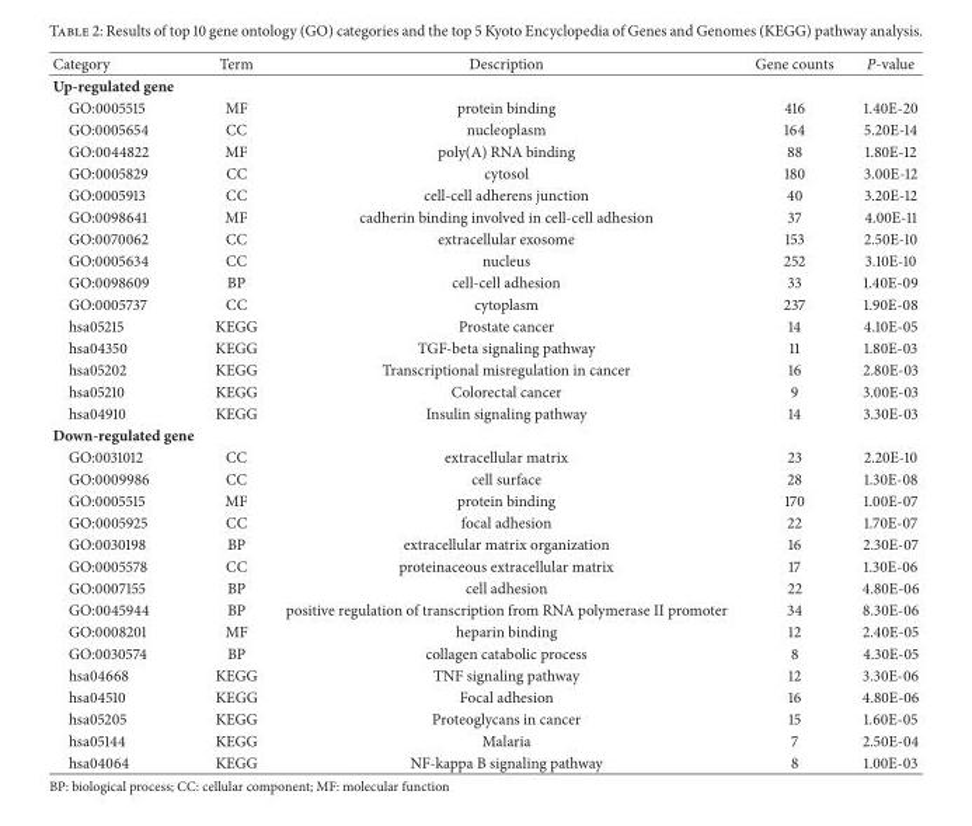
<table><thead><tr><td>Category</td><td>Term</td><td>Description</td><td>Gene counts</td><td>P-value</td></tr></thead><tbody><tr><td colspan="5">Up-regulated gene</td></tr><tr><td>GO:0005515</td><td>MF</td><td>protein binding</td><td>416</td><td>1.40E-20</td></tr><tr><td>GO:0005654</td><td>CC</td><td>nucleoplasm</td><td>164</td><td>5.20E-14</td></tr><tr><td>GO:0044822</td><td>MF</td><td>poly(A) RNA binding</td><td>88</td><td>1.80E-12</td></tr><tr><td>GO:0005829</td><td>CC</td><td>cytosol</td><td>180</td><td>3.00E-12</td></tr><tr><td>GO:0005913</td><td>CC</td><td>cell-cell adherens junction</td><td>40</td><td>3.20E-12</td></tr><tr><td>GO:0098641</td><td>MF</td><td>cadherin binding involved in cell-cell adhesion</td><td>37</td><td>4.00E-11</td></tr><tr><td>GO:0070062</td><td>CC</td><td>extracellular exosome</td><td>153</td><td>2.50E-10</td></tr><tr><td>GO:0005634</td><td>CC</td><td>nucleus</td><td>252</td><td>3.10E-10</td></tr><tr><td>GO:0098609</td><td>BP</td><td>cell-cell adhesion</td><td>33</td><td>1.40E-09</td></tr><tr><td>GO:0005737</td><td>CC</td><td>cytoplasm</td><td>237</td><td>1.90E-08</td></tr><tr><td>hsa05215</td><td>KEGG</td><td>Prostate cancer</td><td>14</td><td>4.10E-05</td></tr><tr><td>hsa04350</td><td>KEGG</td><td>TGF-beta signaling pathway</td><td>11</td><td>1.80E-03</td></tr><tr><td>hsa05202</td><td>KEGG</td><td>Transcriptional misregulation in cancer</td><td>16</td><td>2.80E-03</td></tr><tr><td>hsa05210</td><td>KEGG</td><td>Colorectal cancer</td><td>9</td><td>3.00E-03</td></tr><tr><td>hsa04910</td><td>KEGG</td><td>Insulin signaling pathway</td><td>14</td><td>3.30E-03</td></tr><tr><td colspan="5">Down-regulated gene</td></tr><tr><td>GO:0031012</td><td>CC</td><td>extracellular matrix</td><td>23</td><td>2.20E-10</td></tr><tr><td>GO:0009986</td><td>CC</td><td>cell surface</td><td>28</td><td>1.30E-08</td></tr><tr><td>GO:0005515</td><td>MF</td><td>protein binding</td><td>170</td><td>1.00E-07</td></tr><tr><td>GO:0005925</td><td>CC</td><td>focal adhesion</td><td>22</td><td>1.70E-07</td></tr><tr><td>GO:0030198</td><td>BP</td><td>extracellular matrix organization</td><td>16</td><td>2.30E-07</td></tr><tr><td>GO:0005578</td><td>CC</td><td>proteinaceous extracellular matrix</td><td>17</td><td>1.30E-06</td></tr><tr><td>GO:0007155</td><td>BP</td><td>cell adhesion</td><td>22</td><td>4.80E-06</td></tr><tr><td>GO:0045944</td><td>BP</td><td>positive regulation of transcription from RNA polymerase II promoter</td><td>34</td><td>8.30E-06</td></tr><tr><td>GO:0008201</td><td>MF</td><td>heparin binding</td><td>12</td><td>2.40E-05</td></tr><tr><td>GO:0030574</td><td>BP</td><td>collagen catabolic process</td><td>8</td><td>4.30E-05</td></tr><tr><td>hsa04668</td><td>KEGG</td><td>TNF signaling pathway</td><td>12</td><td>3.30E-06</td></tr><tr><td>hsa04510</td><td>KEGG</td><td>Focal adhesion</td><td>16</td><td>4.80E-06</td></tr><tr><td>hsa05205</td><td>KEGG</td><td>Proteoglycans in cancer</td><td>15</td><td>1.60E-05</td></tr><tr><td>hsa05144</td><td>KEGG</td><td>Malaria</td><td>7</td><td>2.50E-04</td></tr><tr><td>hsa04064</td><td>KEGG</td><td>NF-kappa B signaling pathway</td><td>8</td><td>1.00E-03</td></tr></tbody></table>